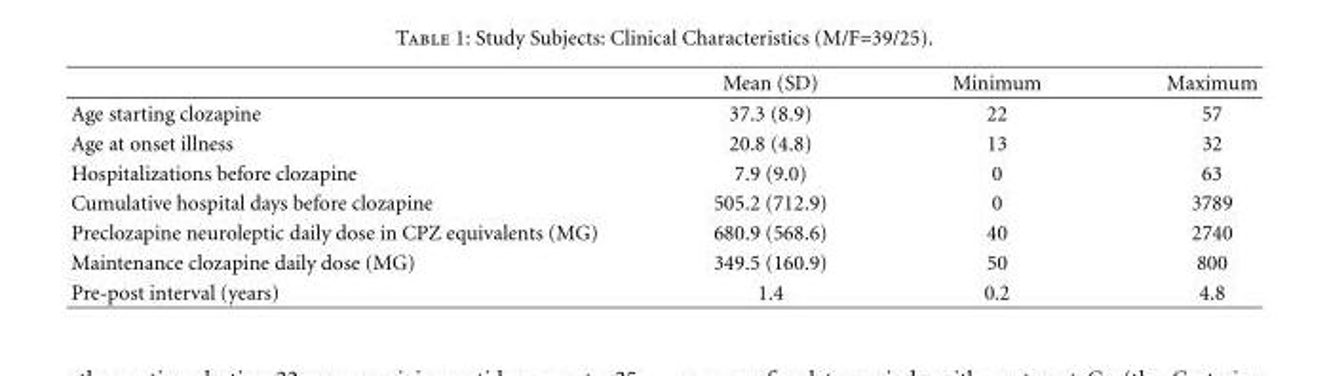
<table><thead><tr><td></td><td>Mean (SD)</td><td>Minimum</td><td>Maximum</td></tr></thead><tbody><tr><td>Age starting clozapine</td><td>37.3 (8.9)</td><td>22</td><td>57</td></tr><tr><td>Age at onset illness</td><td>20.8 (4.8)</td><td>13</td><td>32</td></tr><tr><td>Hospitalizations before clozapine</td><td>7.9 (9.0)</td><td>0</td><td>63</td></tr><tr><td>Cumulative hospital days before clozapine</td><td>505.2 (712.9)</td><td>0</td><td>3789</td></tr><tr><td>Preclozapine neuroleptic daily dose in CPZ equivalents (MG)</td><td>680.9 (568.6)</td><td>40</td><td>2740</td></tr><tr><td>Maintenance clozapine daily dose (MG)</td><td>349.5 (160.9)</td><td>50</td><td>800</td></tr><tr><td>Pre-post interval (years)</td><td>1.4</td><td>0.2</td><td>4.8</td></tr></tbody></table>